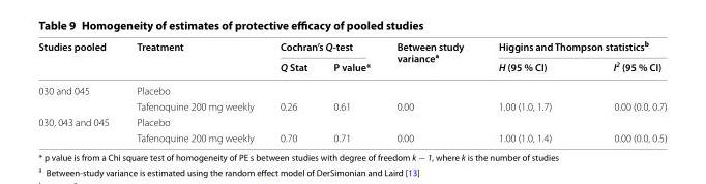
<table><thead><tr><td rowspan="2">Studies pooled</td><td rowspan="2">Treatment</td><td colspan="2">Cochran’s Q-test</td><td rowspan="2">Between study variance<sup>a</sup></td><td colspan="2">Higgins and Thompson statistics<sup>b</sup></td></tr><tr><td>Q Stat</td><td>P value*</td><td>H (95 % CI)</td><td>I<sup>2</sup> (95 % CI)</td></tr></thead><tbody><tr><td rowspan="2">030 and 045</td><td>Placebo</td><td></td><td></td><td></td><td></td><td></td></tr><tr><td>Tafenoquine 200 mg weekly</td><td>0.26</td><td>0.61</td><td>0.00</td><td>1.00 (1.0, 1.7)</td><td>0.00 (0.0, 0.7)</td></tr><tr><td rowspan="2">030, 043 and 045</td><td>Placebo</td><td></td><td></td><td></td><td></td><td></td></tr><tr><td>Tafenoquine 200 mg weekly</td><td>0.70</td><td>0.71</td><td>0.00</td><td>1.00 (1.0, 1.4)</td><td>0.00 (0.0, 0.5)</td></tr></tbody></table>